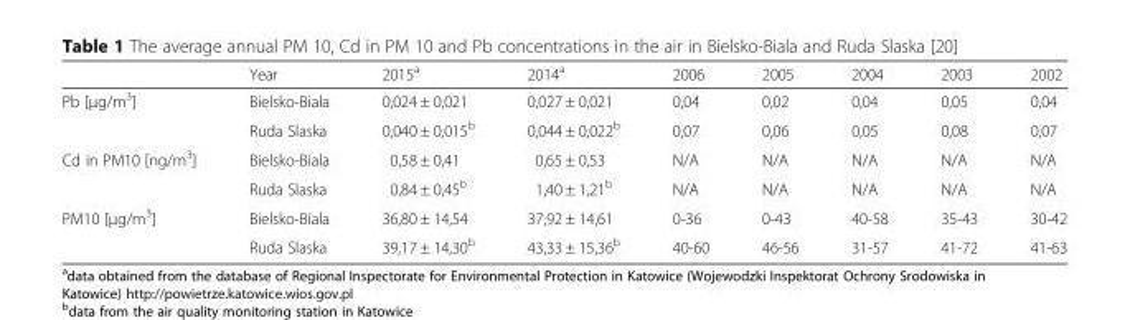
<table><thead><tr><td></td><td>Year</td><td>2015<sup>a</sup></td><td>2014<sup>a</sup></td><td>2006</td><td>2005</td><td>2004</td><td>2003</td><td>2002</td></tr></thead><tbody><tr><td rowspan="2">Pb [μg/m<sup>3</sup>]</td><td>Bielsko-Biala</td><td>0,024 ± 0,021</td><td>0,027 ± 0,021</td><td>0,04</td><td>0,02</td><td>0,04</td><td>0,05</td><td>0,04</td></tr><tr><td>Ruda Slaska</td><td>0,040 ± 0,015<sup>b</sup></td><td>0,044 ± 0,022<sup>b</sup></td><td>0,07</td><td>0,06</td><td>0,05</td><td>0,08</td><td>0,07</td></tr><tr><td rowspan="2">Cd in PM10 [ng/m<sup>3</sup>]</td><td>Bielsko-Biala</td><td>0,58 ± 0,41</td><td>0,65 ± 0,53</td><td>N/A</td><td>N/A</td><td>N/A</td><td>N/A</td><td>N/A</td></tr><tr><td>Ruda Slaska</td><td>0,84 ± 0,45<sup>b</sup></td><td>1,40 ± 1,21<sup>b</sup></td><td>N/A</td><td>N/A</td><td>N/A</td><td>N/A</td><td>N/A</td></tr><tr><td rowspan="2">PM10 [μg/m<sup>3</sup>]</td><td>Bielsko-Biala</td><td>36,80 ± 14,54</td><td>37,92 ± 14,61</td><td>0-36</td><td>0-43</td><td>40-58</td><td>35-43</td><td>30-42</td></tr><tr><td>Ruda Slaska</td><td>39,17 ± 14,30<sup>b</sup></td><td>43,33 ± 15,36<sup>b</sup></td><td>40-60</td><td>46-56</td><td>31-57</td><td>41-72</td><td>41-63</td></tr></tbody></table>